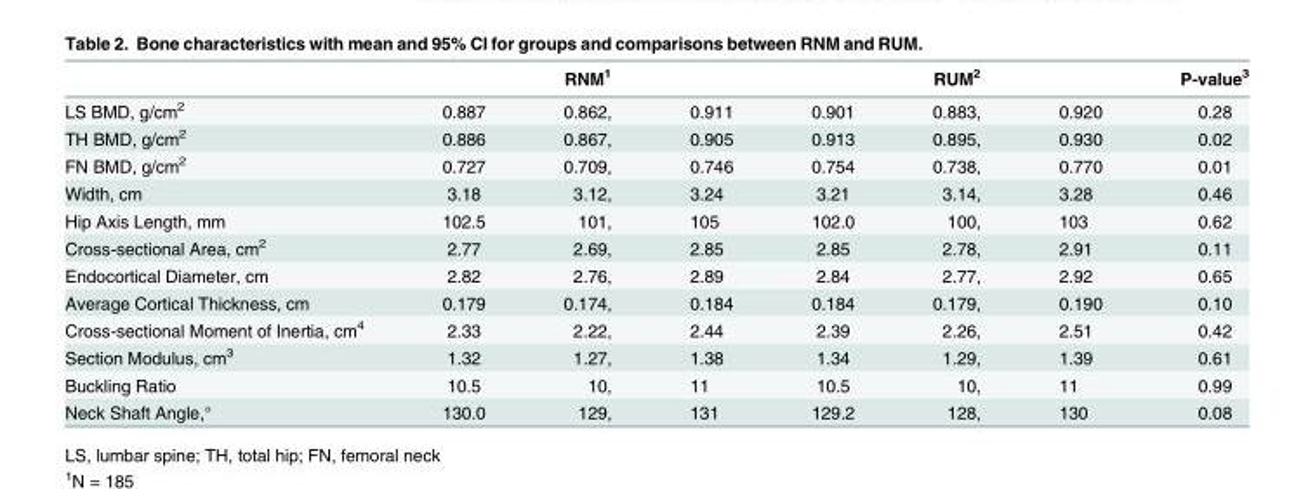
<table><thead><tr><td rowspan="2">LS BMD, g/cm<sup>2</sup></td><td colspan="3">RNM<sup>1</sup></td><td colspan="3">RUM<sup>2</sup></td><td rowspan="2">P-value<sup>3</sup> 0.28</td></tr><tr><td>0.887</td><td>0.862,</td><td>0.911</td><td>0.901</td><td>0.883,</td><td>0.920</td></tr></thead><tbody><tr><td>TH BMD, g/cm<sup>2</sup></td><td>0.886</td><td>0.867,</td><td>0.905</td><td>0.913</td><td>0.895,</td><td>0.930</td><td>0.02</td></tr><tr><td>FN BMD, g/cm<sup>2</sup></td><td>0.727</td><td>0.709,</td><td>0.746</td><td>0.754</td><td>0.738,</td><td>0.770</td><td>0.01</td></tr><tr><td>Width, cm</td><td>3.18</td><td>3.12,</td><td>3.24</td><td>3.21</td><td>3.14,</td><td>3.28</td><td>0.46</td></tr><tr><td>Hip Axis Length, mm</td><td>102.5</td><td>101,</td><td>105</td><td>102.0</td><td>100,</td><td>103</td><td>0.62</td></tr><tr><td>Cross-sectional Area, cm<sup>2</sup></td><td>2.77</td><td>2.69,</td><td>2.85</td><td>2.85</td><td>2.78,</td><td>2.91</td><td>0.11</td></tr><tr><td>Endocortical Diameter, cm</td><td>2.82</td><td>2.76,</td><td>2.89</td><td>2.84</td><td>2.77,</td><td>2.92</td><td>0.65</td></tr><tr><td>Average Cortical Thickness, cm</td><td>0.179</td><td>0.174,</td><td>0.184</td><td>0.184</td><td>0.179,</td><td>0.190</td><td>0.10</td></tr><tr><td>Cross-sectional Moment of Inertia, cm<sup>4</sup></td><td>2.33</td><td>2.22,</td><td>2.44</td><td>2.39</td><td>2.26,</td><td>2.51</td><td>0.42</td></tr><tr><td>Section Modulus, cm<sup>3</sup></td><td>1.32</td><td>1.27,</td><td>1.38</td><td>1.34</td><td>1.29,</td><td>1.39</td><td>0.61</td></tr><tr><td>Buckling Ratio</td><td>10.5</td><td>10,</td><td>11</td><td>10.5</td><td>10,</td><td>11</td><td>0.99</td></tr><tr><td>Neck Shaft Angle,°</td><td>130.0</td><td>129,</td><td>131</td><td>129.2</td><td>128,</td><td>130</td><td>0.08</td></tr></tbody></table>